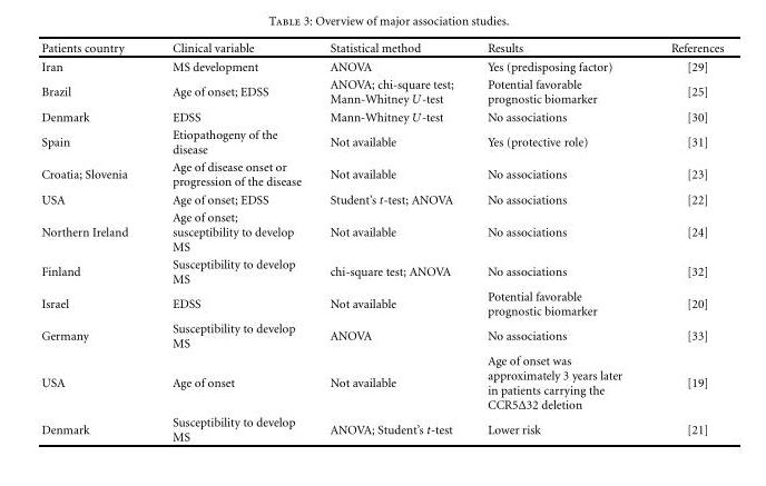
<table><thead><tr><td>Patients country</td><td>Clinical variable</td><td>Statistical method</td><td>Results</td><td>References</td></tr></thead><tbody><tr><td>Iran</td><td>MS development</td><td>ANOVA</td><td>Yes (predisposing factor)</td><td>[29]</td></tr><tr><td>Brazil</td><td>Age of onset; EDSS</td><td>ANOVA; chi-square test; Mann-Whitney U-test</td><td>Potential favorable prognostic biomarker</td><td>[25]</td></tr><tr><td>Denmark</td><td>EDSS</td><td>Mann-Whitney U-test</td><td>No associations</td><td>[30]</td></tr><tr><td>Spain</td><td>Etiopathogeny of the disease</td><td>Not available</td><td>Yes (protective role)</td><td>[31]</td></tr><tr><td>Croatia; Slovenia</td><td>Age of disease onset or progression of the disease</td><td>Not available</td><td>No associations</td><td>[23]</td></tr><tr><td>USA</td><td>Age of onset; EDSS</td><td>Student’s t-test; ANOVA</td><td>No associations</td><td>[22]</td></tr><tr><td>Northern Ireland</td><td>Age of onset; susceptibility to develop MS</td><td>Not available</td><td>No associations</td><td>[24]</td></tr><tr><td>Finland</td><td>Susceptibility to develop MS</td><td>chi-square test; ANOVA</td><td>No associations</td><td>[32]</td></tr><tr><td>Israel</td><td>EDSS</td><td>Not available</td><td>Potential favorable prognostic biomarker</td><td>[20]</td></tr><tr><td>Germany</td><td>Susceptibility to develop MS</td><td>ANOVA</td><td>No associations</td><td>[33]</td></tr><tr><td>USA</td><td>Age of onset</td><td>Not available</td><td>Age of onset was approximately 3 years later in patients carrying the CCR5Δ32 deletion</td><td>[19]</td></tr><tr><td>Denmark</td><td>Susceptibility to develop MS</td><td>ANOVA; Student’s t-test</td><td>Lower risk</td><td>[21]</td></tr></tbody></table>